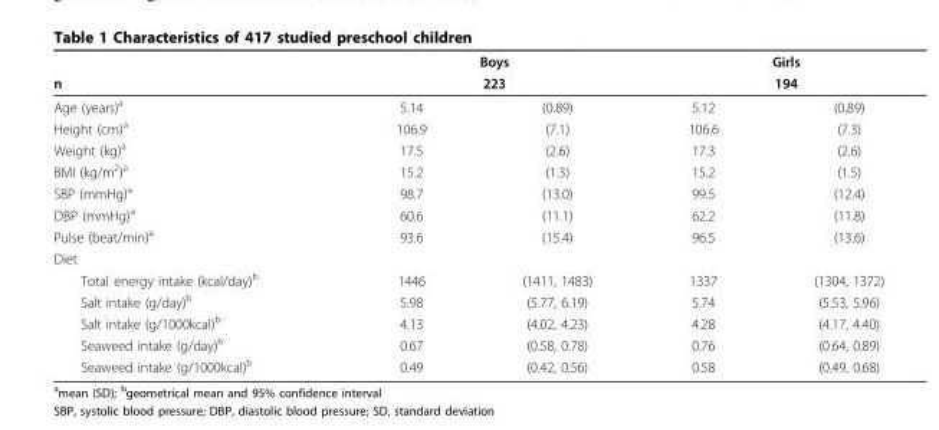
<table><thead><tr><td rowspan="3">n Age (years)<sup>a</sup></td><td rowspan="2" colspan="2">Boys 223</td><td rowspan="2" colspan="2">Girls 194</td></tr><tr></tr><tr><td>5.14</td><td>(0.89)</td><td>5.12</td><td>(0.89)</td></tr></thead><tbody><tr><td>Height (cm)<sup>a</sup></td><td>106.9</td><td>(7.1)</td><td>106.6</td><td>(7.3)</td></tr><tr><td>Weight (kg)<sup>a</sup></td><td>17.5</td><td>(2.6)</td><td>17.3</td><td>(2.6)</td></tr><tr><td>BMI (kg/m<sup>2</sup>)<sup>a</sup></td><td>15.2</td><td>(1.3)</td><td>15.2</td><td>(1.5)</td></tr><tr><td>SBP (mmHg)<sup>a</sup></td><td>98.7</td><td>(13.0)</td><td>99.5</td><td>(12.4)</td></tr><tr><td>DBP (mmHg)<sup>a</sup></td><td>60.6</td><td>(11.1)</td><td>62.2</td><td>(11.8)</td></tr><tr><td>Pulse (beat/min)<sup>a</sup></td><td>93.6</td><td>(15.4)</td><td>96.5</td><td>(13.6)</td></tr><tr><td colspan="5">Diet</td></tr><tr><td>Total energy intake (kcal/day)<sup>b</sup></td><td>1446</td><td>(1411, 1483)</td><td>1337</td><td>(1304, 1372)</td></tr><tr><td>Salt intake (g/day)<sup>b</sup></td><td>5.98</td><td>(5.77, 6.19)</td><td>5.74</td><td>(5.53, 5.96)</td></tr><tr><td>Salt intake (g/1000kcal)<sup>b</sup></td><td>4.13</td><td>(4.02, 4.23)</td><td>4.28</td><td>(4.17, 4.40)</td></tr><tr><td>Seaweed intake (g/day)<sup>b</sup></td><td>0.67</td><td>(0.58, 0.78)</td><td>0.76</td><td>(0.64, 0.89)</td></tr><tr><td>Seaweed intake (g/1000kcal)<sup>b</sup></td><td>0.49</td><td>(0.42, 0.56)</td><td>0.58</td><td>(0.49, 0.68)</td></tr></tbody></table>